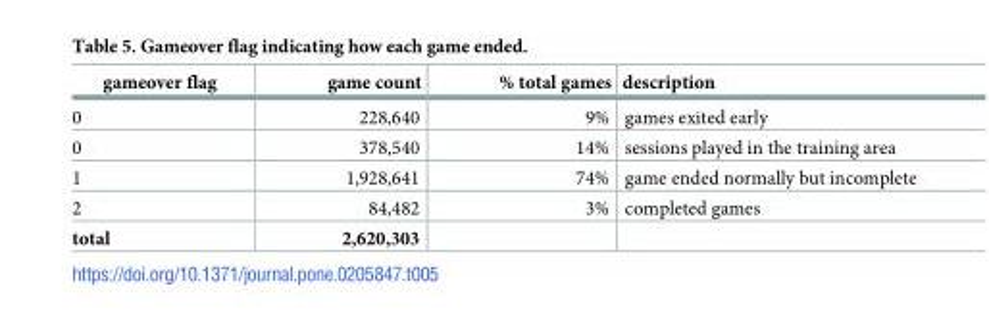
<table><thead><tr><td>gameover flag</td><td>game count</td><td>% total games</td><td>description</td></tr></thead><tbody><tr><td>0</td><td>228,640</td><td>9%</td><td>games exited early</td></tr><tr><td>0</td><td>378,540</td><td>14%</td><td>sessions played in the training area</td></tr><tr><td>1</td><td>1,928,641</td><td>74%</td><td>game ended normally but incomplete</td></tr><tr><td>2</td><td>84,482</td><td>3%</td><td>completed games</td></tr><tr><td>total</td><td>2,620,303</td><td></td><td></td></tr></tbody></table>